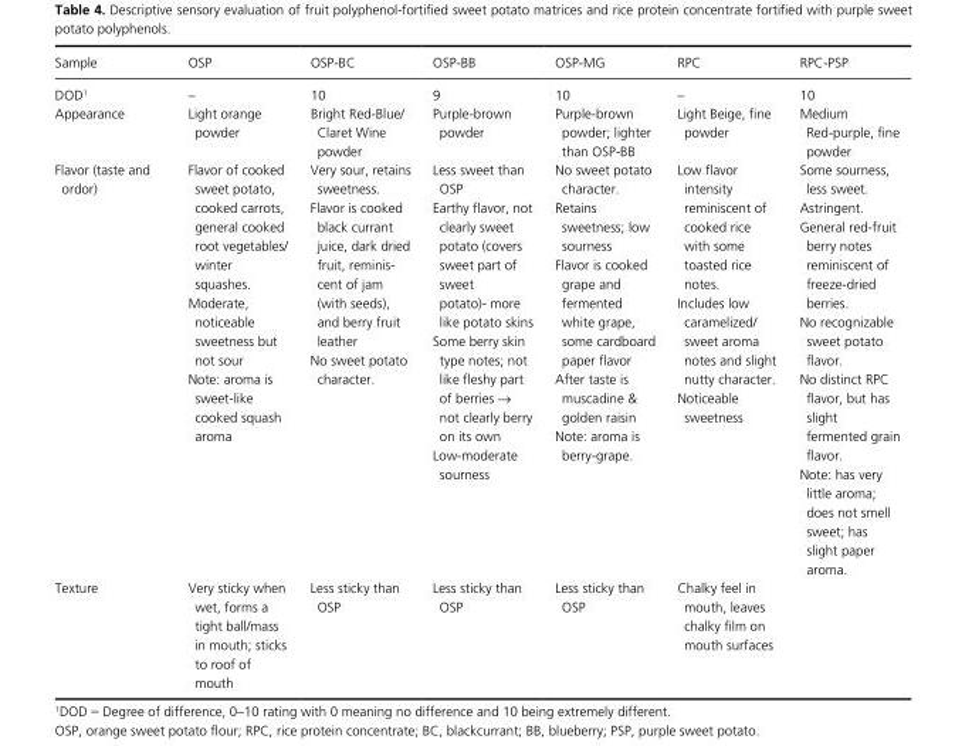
<table><thead><tr><td>Sample</td><td>OSP</td><td>OSP- BC</td><td>OSP- BB</td><td>OSP- MG</td><td>RPC</td><td>RPC- PSP</td></tr></thead><tbody><tr><td>DOD<sup>1</sup></td><td>–</td><td>10</td><td>9</td><td>10</td><td>–</td><td>10</td></tr><tr><td>Appearance</td><td>Light orange powder</td><td>Bright Red- Blue/ Claret Wine powder</td><td>Purple- brown powder</td><td>Purple- brown powder; lighter than OSP- BB</td><td>Light Beige, fine powder</td><td>Medium Red- purple, fine powder</td></tr><tr><td>Flavor (taste and ordor)</td><td>Flavor of cooked sweet potato, cooked carrots, general cooked root vegetables/ winter squashes. Moderate, noticeable sweetness but not sour Note: aroma is sweet- like cooked squash aroma</td><td>Very sour, retains sweetness. Flavor is cooked black currant juice, dark dried fruit, reminis- cent of jam (with seeds), and berry fruit leather No sweet potato character.</td><td>Less sweet than OSP Earthy flavor, not clearly sweet potato (covers sweet part of sweet potato)- more like potato skins Some berry skin type notes; not like fleshy part of berries → not clearly berry on its own Low- moderate sourness</td><td>No sweet potato character. Retains sweetness; low sourness Flavor is cooked grape and fermented white grape, some cardboard paper flavor After taste is muscadine &amp; golden raisin Note: aroma is berry- grape.</td><td>Low flavor intensity reminiscent of cooked rice with some toasted rice notes. Includes low caramelized/ sweet aroma notes and slight nutty character. Noticeable sweetness</td><td>Some sourness, less sweet. Astringent. General red- fruit berry notes reminiscent of freeze- dried berries. No recognizable sweet potato flavor. No distinct RPC flavor, but has slight fermented grain flavor. Note: has very little aroma; does not smell sweet; has slight paper aroma.</td></tr><tr><td>Texture</td><td>Very sticky when wet, forms a tight ball/mass in mouth; sticks to roof of mouth</td><td>Less sticky than OSP</td><td>Less sticky than OSP</td><td>Less sticky than OSP</td><td>Chalky feel in mouth, leaves chalky film on mouth surfaces</td><td></td></tr></tbody></table>